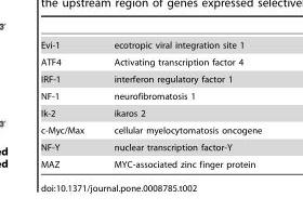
<table><tbody><tr><td>Evi-1</td><td>ecotropic viral integration site 1</td></tr><tr><td>ATF4</td><td>Activating transcription factor 4</td></tr><tr><td>IRF-1</td><td>interferon regulatory factor 1</td></tr><tr><td>NF-1</td><td>neurofibromatosis 1</td></tr><tr><td>Ik-2</td><td>ikaros 2</td></tr><tr><td>c-Myc/Max</td><td>cellular myelocytomatosis oncogene</td></tr><tr><td>NF-Y</td><td>nuclear transcription factor-Y</td></tr><tr><td>MAZ</td><td>MYC-associated zinc finger protein</td></tr></tbody></table>